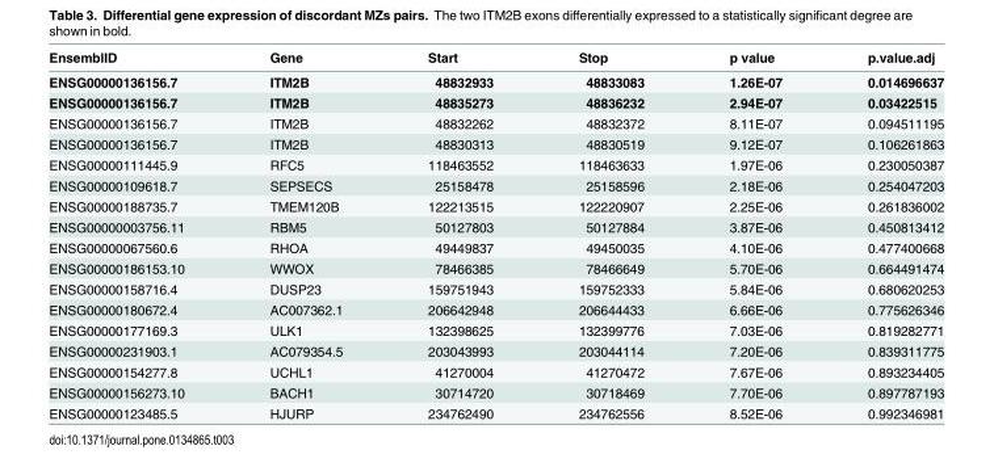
<table><thead><tr><td>EnsemblID</td><td>Gene</td><td>Start</td><td>Stop</td><td>p value</td><td>p.value.adj</td></tr></thead><tbody><tr><td>ENSG00000136156.7</td><td>ITM2B</td><td>48832933</td><td>48833083</td><td>1.26E-07</td><td>0.014696637</td></tr><tr><td>ENSG00000136156.7</td><td>ITM2B</td><td>48835273</td><td>48836232</td><td>2.94E-07</td><td>0.03422515</td></tr><tr><td>ENSG00000136156.7</td><td>ITM2B</td><td>48832262</td><td>48832372</td><td>8.11E-07</td><td>0.094511195</td></tr><tr><td>ENSG00000136156.7</td><td>ITM2B</td><td>48830313</td><td>48830519</td><td>9.12E-07</td><td>0.106261863</td></tr><tr><td>ENSG00000111445.9</td><td>RFC5</td><td>118463552</td><td>118463633</td><td>1.97E-06</td><td>0.230050387</td></tr><tr><td>ENSG00000109618.7</td><td>SEPSECS</td><td>25158478</td><td>25158596</td><td>2.18E-06</td><td>0.254047203</td></tr><tr><td>ENSG00000188735.7</td><td>TMEM120B</td><td>122213515</td><td>122220907</td><td>2.25E-06</td><td>0.261836002</td></tr><tr><td>ENSG00000003756.11</td><td>RBM5</td><td>50127803</td><td>50127884</td><td>3.87E-06</td><td>0.450813412</td></tr><tr><td>ENSG00000067560.6</td><td>RHOA</td><td>49449837</td><td>49450035</td><td>4.10E-06</td><td>0.477400668</td></tr><tr><td>ENSG00000186153.10</td><td>WWOX</td><td>78466385</td><td>78466649</td><td>5.70E-06</td><td>0.664491474</td></tr><tr><td>ENSG00000158716.4</td><td>DUSP23</td><td>159751943</td><td>159752333</td><td>5.84E-06</td><td>0.680620253</td></tr><tr><td>ENSG00000180672.4</td><td>AC007362.1</td><td>206642948</td><td>206644433</td><td>6.66E-06</td><td>0.775626346</td></tr><tr><td>ENSG00000177169.3</td><td>ULK1</td><td>132398625</td><td>132399776</td><td>7.03E-06</td><td>0.819282771</td></tr><tr><td>ENSG00000231903.1</td><td>AC079354.5</td><td>203043993</td><td>203044114</td><td>7.20E-06</td><td>0.839311775</td></tr><tr><td>ENSG00000154277.8</td><td>UCHL1</td><td>41270004</td><td>41270472</td><td>7.67E-06</td><td>0.893234405</td></tr><tr><td>ENSG00000156273.10</td><td>BACH1</td><td>30714720</td><td>30718469</td><td>7.70E-06</td><td>0.897787193</td></tr><tr><td>ENSG00000123485.5</td><td>HJURP</td><td>234762490</td><td>234762556</td><td>8.52E-06</td><td>0.992346981</td></tr></tbody></table>